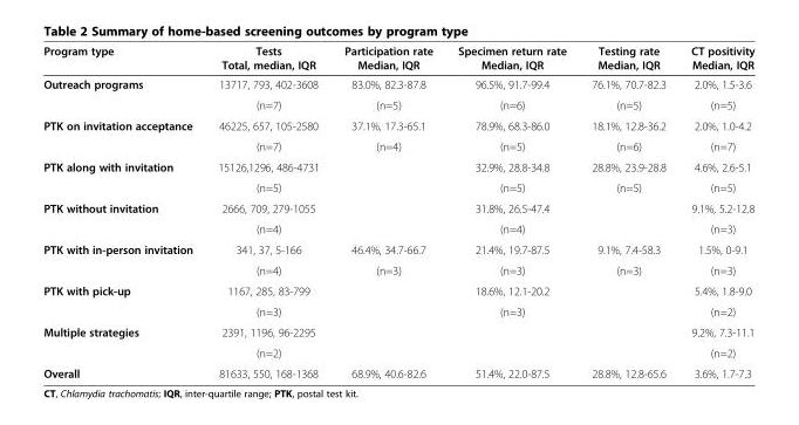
<table><thead><tr><td rowspan="2">Program type</td><td rowspan="2">Tests Total, median, IQR</td><td rowspan="2">Participation rate Median, IQR</td><td rowspan="2">Specimen return rate Median, IQR</td><td rowspan="2">Testing rate Median, IQR</td><td rowspan="2">CT positivity Median, IQR</td></tr><tr></tr></thead><tbody><tr><td rowspan="2">Outreach programs</td><td>13717, 793, 402-3608</td><td>83.0%, 82.3-87.8</td><td>96.5%, 91.7-99.4</td><td>76.1%, 70.7-82.3</td><td>2.0%, 1.5-3.6</td></tr><tr><td>(n=7)</td><td>(n=5)</td><td>(n=6)</td><td>(n=5)</td><td>(n=5)</td></tr><tr><td rowspan="2">PTK on invitation acceptance</td><td>46225, 657, 105-2580</td><td>37.1%, 17.3-65.1</td><td>78.9%, 68.3-86.0</td><td>18.1%, 12.8-36.2</td><td>2.0%, 1.0-4.2</td></tr><tr><td>(n=7)</td><td>(n=4)</td><td>(n=5)</td><td>(n=6)</td><td>(n=7)</td></tr><tr><td rowspan="2">PTK along with invitation</td><td>15126,1296, 486-4731</td><td></td><td>32.9%, 28.8-34.8</td><td>28.8%, 23.9-28.8</td><td>4.6%, 2.6-5.1</td></tr><tr><td>(n=5)</td><td></td><td>(n=5)</td><td>(n=5)</td><td>(n=5)</td></tr><tr><td rowspan="2">PTK without invitation</td><td>2666, 709, 279-1055</td><td></td><td>31.8%, 26.5-47.4</td><td></td><td>9.1%, 5.2-12.8</td></tr><tr><td>(n=4)</td><td></td><td>(n=4)</td><td></td><td>(n=3)</td></tr><tr><td rowspan="2">PTK with in-person invitation</td><td>341, 37, 5-166</td><td>46.4%, 34.7-66.7</td><td>21.4%, 19.7-87.5</td><td>9.1%, 7.4-58.3</td><td>1.5%, 0-9.1</td></tr><tr><td>(n=4)</td><td>(n=3)</td><td>(n=3)</td><td>(n=3)</td><td>(n=3)</td></tr><tr><td rowspan="2">PTK with pick-up</td><td>1167, 285, 83-799</td><td></td><td>18.6%, 12.1-20.2</td><td></td><td>5.4%, 1.8-9.0</td></tr><tr><td>(n=3)</td><td></td><td>(n=3)</td><td></td><td>(n=2)</td></tr><tr><td rowspan="2">Multiple strategies</td><td>2391, 1196, 96-2295</td><td></td><td></td><td></td><td>9.2%, 7.3-11.1</td></tr><tr><td>(n=2)</td><td></td><td></td><td></td><td>(n=2)</td></tr><tr><td>Overall</td><td>81633, 550, 168-1368</td><td>68.9%, 40.6-82.6</td><td>51.4%, 22.0-87.5</td><td>28.8%, 12.8-65.6</td><td>3.6%, 1.7-7.3</td></tr></tbody></table>